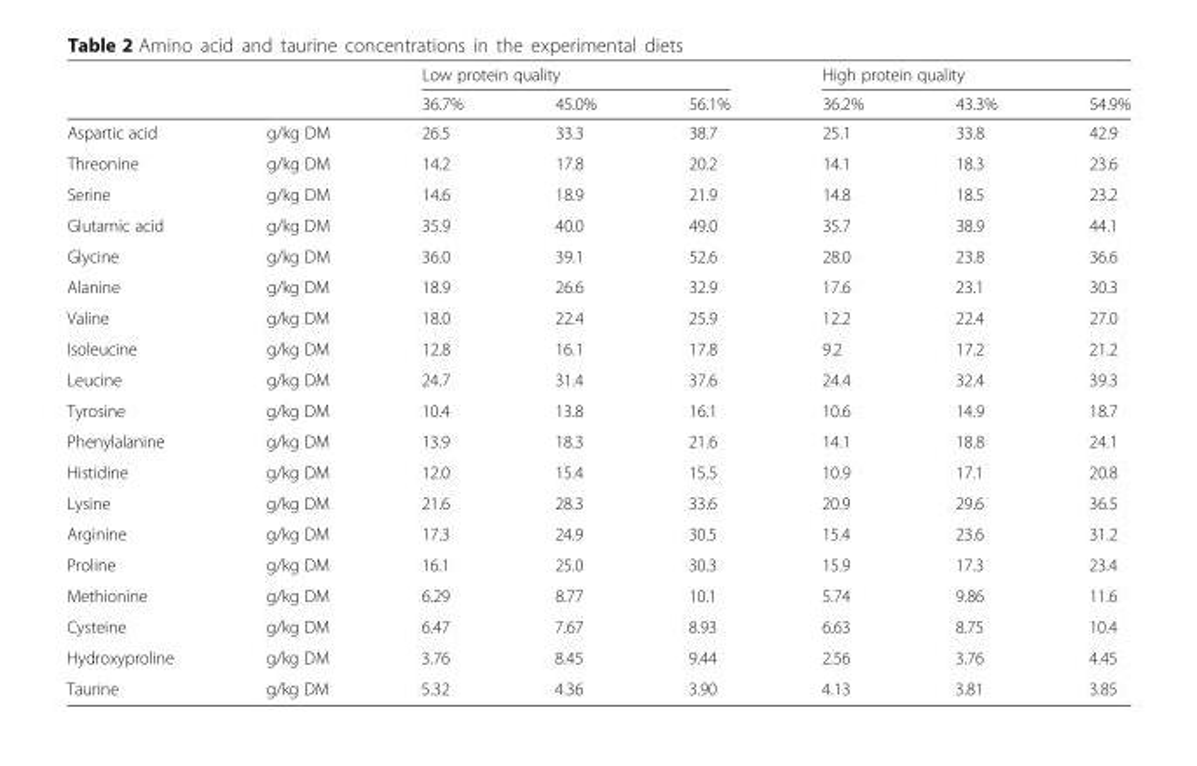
<table><thead><tr><td rowspan="2"></td><td rowspan="2"></td><td colspan="3">Low protein quality</td><td colspan="3">High protein quality</td></tr><tr><td>36.7%</td><td>45.0%</td><td>56.1%</td><td>36.2%</td><td>43.3%</td><td>54.9%</td></tr></thead><tbody><tr><td>Aspartic acid</td><td>g/kg DM</td><td>26.5</td><td>33.3</td><td>38.7</td><td>25.1</td><td>33.8</td><td>42.9</td></tr><tr><td>Threonine</td><td>g/kg DM</td><td>14.2</td><td>17.8</td><td>20.2</td><td>14.1</td><td>18.3</td><td>23.6</td></tr><tr><td>Serine</td><td>g/kg DM</td><td>14.6</td><td>18.9</td><td>21.9</td><td>14.8</td><td>18.5</td><td>23.2</td></tr><tr><td>Glutamic acid</td><td>g/kg DM</td><td>35.9</td><td>40.0</td><td>49.0</td><td>35.7</td><td>38.9</td><td>44.1</td></tr><tr><td>Glycine</td><td>g/kg DM</td><td>36.0</td><td>39.1</td><td>52.6</td><td>28.0</td><td>23.8</td><td>36.6</td></tr><tr><td>Alanine</td><td>g/kg DM</td><td>18.9</td><td>26.6</td><td>32.9</td><td>17.6</td><td>23.1</td><td>30.3</td></tr><tr><td>Valine</td><td>g/kg DM</td><td>18.0</td><td>22.4</td><td>25.9</td><td>12.2</td><td>22.4</td><td>27.0</td></tr><tr><td>Isoleucine</td><td>g/kg DM</td><td>12.8</td><td>16.1</td><td>17.8</td><td>9.2</td><td>17.2</td><td>21.2</td></tr><tr><td>Leucine</td><td>g/kg DM</td><td>24.7</td><td>31.4</td><td>37.6</td><td>24.4</td><td>32.4</td><td>39.3</td></tr><tr><td>Tyrosine</td><td>g/kg DM</td><td>10.4</td><td>13.8</td><td>16.1</td><td>10.6</td><td>14.9</td><td>18.7</td></tr><tr><td>Phenylalanine</td><td>g/kg DM</td><td>13.9</td><td>18.3</td><td>21.6</td><td>14.1</td><td>18.8</td><td>24.1</td></tr><tr><td>Histidine</td><td>g/kg DM</td><td>12.0</td><td>15.4</td><td>15.5</td><td>10.9</td><td>17.1</td><td>20.8</td></tr><tr><td>Lysine</td><td>g/kg DM</td><td>21.6</td><td>28.3</td><td>33.6</td><td>20.9</td><td>29.6</td><td>36.5</td></tr><tr><td>Arginine</td><td>g/kg DM</td><td>17.3</td><td>24.9</td><td>30.5</td><td>15.4</td><td>23.6</td><td>31.2</td></tr><tr><td>Proline</td><td>g/kg DM</td><td>16.1</td><td>25.0</td><td>30.3</td><td>15.9</td><td>17.3</td><td>23.4</td></tr><tr><td>Methionine</td><td>g/kg DM</td><td>6.29</td><td>8.77</td><td>10.1</td><td>5.74</td><td>9.86</td><td>11.6</td></tr><tr><td>Cysteine</td><td>g/kg DM</td><td>6.47</td><td>7.67</td><td>8.93</td><td>6.63</td><td>8.75</td><td>10.4</td></tr><tr><td>Hydroxyproline</td><td>g/kg DM</td><td>3.76</td><td>8.45</td><td>9.44</td><td>2.56</td><td>3.76</td><td>4.45</td></tr><tr><td>Taurine</td><td>g/kg DM</td><td>5.32</td><td>4.36</td><td>3.90</td><td>4.13</td><td>3.81</td><td>3.85</td></tr></tbody></table>